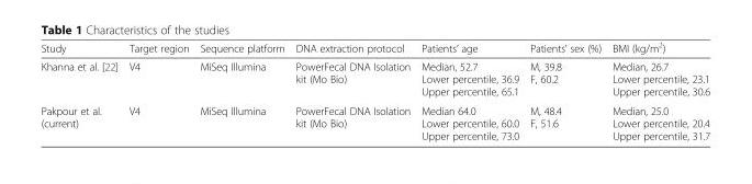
<table><thead><tr><td>Study</td><td>Target region</td><td>Sequence platform</td><td>DNA extraction protocol</td><td>Patients’ age</td><td>Patients’ sex (%)</td><td>BMI (kg/m<sup>2</sup>)</td></tr></thead><tbody><tr><td>Khanna et al. [22]</td><td>V4</td><td>MiSeq Illumina</td><td>PowerFecal DNA Isolation kit (Mo Bio)</td><td>Median, 52.7 Lower percentile, 36.9 Upper percentile, 65.1</td><td>M, 39.8 F, 60.2</td><td>Median, 26.7 Lower percentile, 23.1 Upper percentile, 30.6</td></tr><tr><td>Pakpour et al. (current)</td><td>V4</td><td>MiSeq Illumina</td><td>PowerFecal DNA Isolation kit (Mo Bio)</td><td>Median 64.0 Lower percentile, 60.0 Upper percentile, 73.0</td><td>M, 48.4 F, 51.6</td><td>Median, 25.0 Lower percentile, 20.4 Upper percentile, 31.7</td></tr></tbody></table>